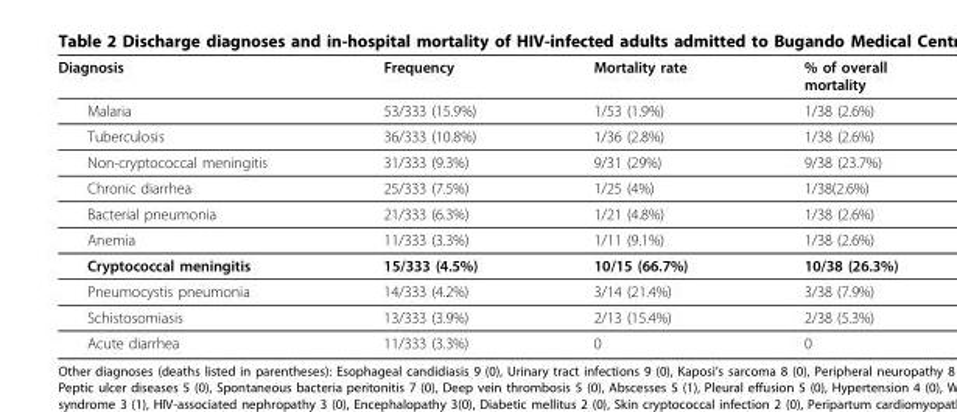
<table><thead><tr><td>Diagnosis</td><td>Frequency</td><td>Mortality rate</td><td>% of overall mortality</td></tr></thead><tbody><tr><td>Malaria</td><td>53/333 (15.9%)</td><td>1/53 (1.9%)</td><td>1/38 (2.6%)</td></tr><tr><td>Tuberculosis</td><td>36/333 (10.8%)</td><td>1/36 (2.8%)</td><td>1/38 (2.6%)</td></tr><tr><td>Non-cryptococcal meningitis</td><td>31/333 (9.3%)</td><td>9/31 (29%)</td><td>9/38 (23.7%)</td></tr><tr><td>Chronic diarrhea</td><td>25/333 (7.5%)</td><td>1/25 (4%)</td><td>1/38(2.6%)</td></tr><tr><td>Bacterial pneumonia</td><td>21/333 (6.3%)</td><td>1/21 (4.8%)</td><td>1/38 (2.6%)</td></tr><tr><td>Anemia</td><td>11/333 (3.3%)</td><td>1/11 (9.1%)</td><td>1/38 (2.6%)</td></tr><tr><td>Cryptococcal meningitis</td><td>15/333 (4.5%)</td><td>10/15 (66.7%)</td><td>10/38 (26.3%)</td></tr><tr><td>Pneumocystis pneumonia</td><td>14/333 (4.2%)</td><td>3/14 (21.4%)</td><td>3/38 (7.9%)</td></tr><tr><td>Schistosomiasis</td><td>13/333 (3.9%)</td><td>2/13 (15.4%)</td><td>2/38 (5.3%)</td></tr><tr><td>Acute diarrhea</td><td>11/333 (3.3%)</td><td>0</td><td>0</td></tr></tbody></table>